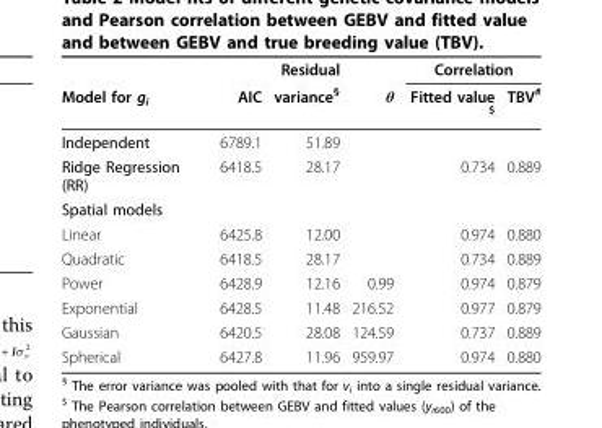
<table><thead><tr><td rowspan="2">Model for g<sub>i</sub></td><td rowspan="2">AIC</td><td rowspan="2">Residual variance<sup>§</sup></td><td rowspan="2">θ</td><td colspan="2">Correlation</td></tr><tr><td>Fitted value <sup>$</sup></td><td>TBV<sup>#</sup></td></tr></thead><tbody><tr><td>Independent</td><td>6789.1</td><td>51.89</td><td></td><td></td><td></td></tr><tr><td>Ridge Regression (RR)</td><td>6418.5</td><td>28.17</td><td></td><td>0.734</td><td>0.889</td></tr><tr><td colspan="6">Spatial models</td></tr><tr><td>Linear</td><td>6425.8</td><td>12.00</td><td></td><td>0.974</td><td>0.880</td></tr><tr><td>Quadratic</td><td>6418.5</td><td>28.17</td><td></td><td>0.734</td><td>0.889</td></tr><tr><td>Power</td><td>6428.9</td><td>12.16</td><td>0.99</td><td>0.974</td><td>0.879</td></tr><tr><td>Exponential</td><td>6428.5</td><td>11.48</td><td>216.52</td><td>0.977</td><td>0.879</td></tr><tr><td>Gaussian</td><td>6420.5</td><td>28.08</td><td>124.59</td><td>0.737</td><td>0.889</td></tr><tr><td>Spherical</td><td>6427.8</td><td>11.96</td><td>959.97</td><td>0.974</td><td>0.880</td></tr></tbody></table>